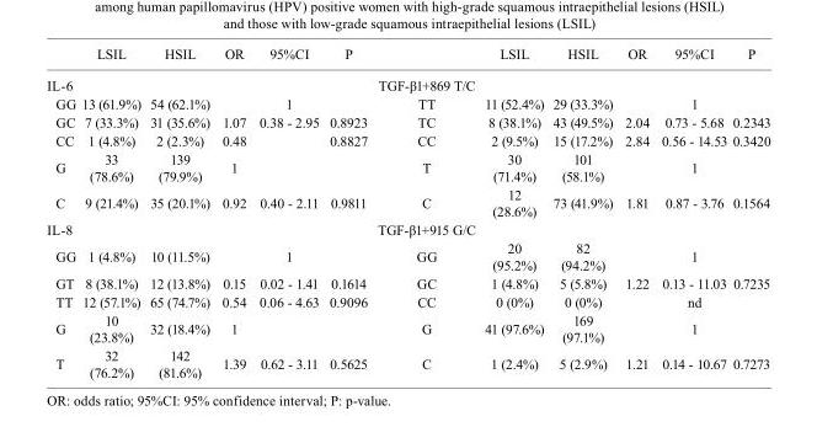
<table><thead><tr><td></td><td>LSIL</td><td>HSIL</td><td>OR</td><td>95%CI</td><td>P</td><td></td><td>LSIL</td><td>HSIL</td><td>OR</td><td>95%CI</td><td>P</td></tr></thead><tbody><tr><td>IL-6</td><td></td><td></td><td></td><td></td><td></td><td>TGF-β1+869 T/C</td><td></td><td></td><td></td><td></td><td></td></tr><tr><td>GG</td><td>13 (61.9%)</td><td>54 (62.1%)</td><td></td><td>1</td><td></td><td>TT</td><td>11 (52.4%)</td><td>29 (33.3%)</td><td></td><td>1</td><td></td></tr><tr><td>GC</td><td>7 (33.3%)</td><td>31 (35.6%)</td><td>1.07</td><td>0.38 - 2.95</td><td>0.8923</td><td>TC</td><td>8 (38.1%)</td><td>43 (49.5%)</td><td>2.04</td><td>0.73 - 5.68</td><td>0.2343</td></tr><tr><td>CC</td><td>1 (4.8%)</td><td>2 (2.3%)</td><td>0.48</td><td></td><td>0.8827</td><td>CC</td><td>2 (9.5%)</td><td>15 (17.2%)</td><td>2.84</td><td>0.56 - 14.53</td><td>0.3420</td></tr><tr><td>G</td><td>33 (78.6%)</td><td>139 (79.9%)</td><td>1</td><td></td><td></td><td>T</td><td>30 (71.4%)</td><td>101 (58.1%)</td><td></td><td>1</td><td></td></tr><tr><td>C</td><td>9 (21.4%)</td><td>35 (20.1%)</td><td>0.92</td><td>0.40 - 2.11</td><td>0.9811</td><td>C</td><td>12 (28.6%)</td><td>73 (41.9%)</td><td>1.81</td><td>0.87 - 3.76</td><td>0.1564</td></tr><tr><td>IL-8</td><td></td><td></td><td></td><td></td><td></td><td>TGF-β1+915 G/C</td><td></td><td></td><td></td><td></td><td></td></tr><tr><td>GG</td><td>1 (4.8%)</td><td>10 (11.5%)</td><td></td><td>1</td><td></td><td>GG</td><td>20 (95.2%)</td><td>82 (94.2%)</td><td></td><td>1</td><td></td></tr><tr><td>GT</td><td>8 (38.1%)</td><td>12 (13.8%)</td><td>0.15</td><td>0.02 - 1.41</td><td>0.1614</td><td>GC</td><td>1 (4.8%)</td><td>5 (5.8%)</td><td>1.22</td><td>0.13 - 11.03</td><td>0.7235</td></tr><tr><td>TT</td><td>12 (57.1%)</td><td>65 (74.7%)</td><td>0.54</td><td>0.06 - 4.63</td><td>0.9096</td><td>CC</td><td>0 (0%)</td><td>0 (0%)</td><td></td><td>nd</td><td></td></tr><tr><td>G</td><td>10 (23.8%)</td><td>32 (18.4%)</td><td>1</td><td></td><td></td><td>G</td><td>41 (97.6%)</td><td>169 (97.1%)</td><td></td><td>1</td><td></td></tr><tr><td>T</td><td>32 (76.2%)</td><td>142 (81.6%)</td><td>1.39</td><td>0.62 - 3.11</td><td>0.5625</td><td>C</td><td>1 (2.4%)</td><td>5 (2.9%)</td><td>1.21</td><td>0.14 - 10.67</td><td>0.7273</td></tr></tbody></table>